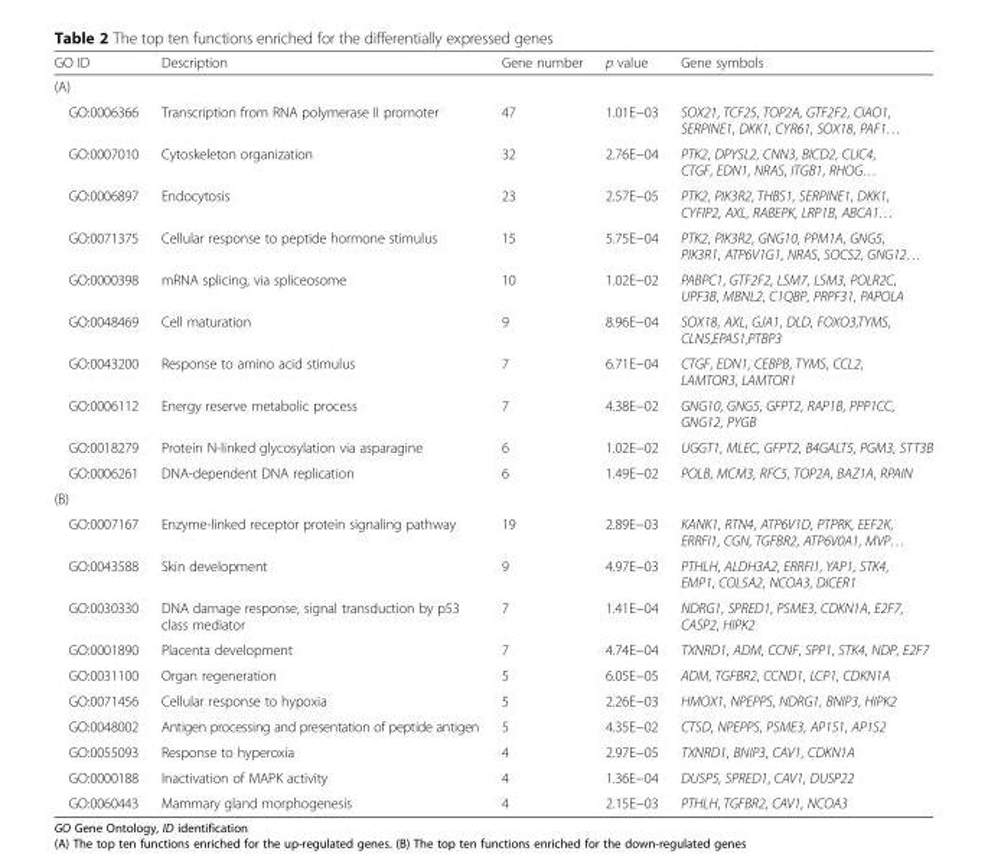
<table><thead><tr><td>GO ID</td><td>Description</td><td>Gene number</td><td>p value</td><td>Gene symbols</td></tr></thead><tbody><tr><td colspan="5">(A)</td></tr><tr><td>GO:0006366</td><td>Transcription from RNA polymerase II promoter</td><td>47</td><td>1.01E−03</td><td>SOX21, TCF25, TOP2A, GTF2F2, CIAO1, SERPINE1, DKK1, CYR61, SOX18, PAF1…</td></tr><tr><td>GO:0007010</td><td>Cytoskeleton organization</td><td>32</td><td>2.76E−04</td><td>PTK2, DPYSL2, CNN3, BICD2, CLIC4, CTGF, EDN1, NRAS, ITGB1, RHOG…</td></tr><tr><td>GO:0006897</td><td>Endocytosis</td><td>23</td><td>2.57E−05</td><td>PTK2, PIK3R2, THBS1, SERPINE1, DKK1, CYFIP2, AXL, RABEPK, LRP1B, ABCA1…</td></tr><tr><td>GO:0071375</td><td>Cellular response to peptide hormone stimulus</td><td>15</td><td>5.75E−04</td><td>PTK2, PIK3R2, GNG10, PPM1A, GNG5, PIK3R1, ATP6V1G1, NRAS, SOCS2, GNG12…</td></tr><tr><td>GO:0000398</td><td>mRNA splicing, via spliceosome</td><td>10</td><td>1.02E−02</td><td>PABPC1, GTF2F2, LSM7, LSM3, POLR2C, UPF3B, MBNL2, C1QBP, PRPF31, PAPOLA</td></tr><tr><td>GO:0048469</td><td>Cell maturation</td><td>9</td><td>8.96E−04</td><td>SOX18, AXL, GJA1, DLD, FOXO3,TYMS, CLN5,EPAS1,PTBP3</td></tr><tr><td>GO:0043200</td><td>Response to amino acid stimulus</td><td>7</td><td>6.71E−04</td><td>CTGF, EDN1, CEBPB, TYMS, CCL2, LAMTOR3, LAMTOR1</td></tr><tr><td>GO:0006112</td><td>Energy reserve metabolic process</td><td>7</td><td>4.38E−02</td><td>GNG10, GNG5, GFPT2, RAP1B, PPP1CC, GNG12, PYGB</td></tr><tr><td>GO:0018279</td><td>Protein N-linked glycosylation via asparagine</td><td>6</td><td>1.02E−02</td><td>UGGT1, MLEC, GFPT2, B4GALT5, PGM3, STT3B</td></tr><tr><td>GO:0006261</td><td>DNA-dependent DNA replication</td><td>6</td><td>1.49E−02</td><td>POLB, MCM3, RFC5, TOP2A, BAZ1A, RPAIN</td></tr><tr><td colspan="5">(B)</td></tr><tr><td>GO:0007167</td><td>Enzyme-linked receptor protein signaling pathway</td><td>19</td><td>2.89E−03</td><td>KANK1, RTN4, ATP6V1D, PTPRK, EEF2K, ERRFI1, CGN, TGFBR2, ATP6V0A1, MVP…</td></tr><tr><td>GO:0043588</td><td>Skin development</td><td>9</td><td>4.97E−03</td><td>PTHLH, ALDH3A2, ERRFI1, YAP1, STK4, EMP1, COL5A2, NCOA3, DICER1</td></tr><tr><td>GO:0030330</td><td>DNA damage response, signal transduction by p53 class mediator</td><td>7</td><td>1.41E−04</td><td>NDRG1, SPRED1, PSME3, CDKN1A, E2F7, CASP2, HIPK2</td></tr><tr><td>GO:0001890</td><td>Placenta development</td><td>7</td><td>4.74E−04</td><td>TXNRD1, ADM, CCNF, SPP1, STK4, NDP, E2F7</td></tr><tr><td>GO:0031100</td><td>Organ regeneration</td><td>5</td><td>6.05E−05</td><td>ADM, TGFBR2, CCND1, LCP1, CDKN1A</td></tr><tr><td>GO:0071456</td><td>Cellular response to hypoxia</td><td>5</td><td>2.26E−03</td><td>HMOX1, NPEPPS, NDRG1, BNIP3, HIPK2</td></tr><tr><td>GO:0048002</td><td>Antigen processing and presentation of peptide antigen</td><td>5</td><td>4.35E−02</td><td>CTSD, NPEPPS, PSME3, AP1S1, AP1S2</td></tr><tr><td>GO:0055093</td><td>Response to hyperoxia</td><td>4</td><td>2.97E−05</td><td>TXNRD1, BNIP3, CAV1, CDKN1A</td></tr><tr><td>GO:0000188</td><td>Inactivation of MAPK activity</td><td>4</td><td>1.36E−04</td><td>DUSP5, SPRED1, CAV1, DUSP22</td></tr><tr><td>GO:0060443</td><td>Mammary gland morphogenesis</td><td>4</td><td>2.15E−03</td><td>PTHLH, TGFBR2, CAV1, NCOA3</td></tr></tbody></table>